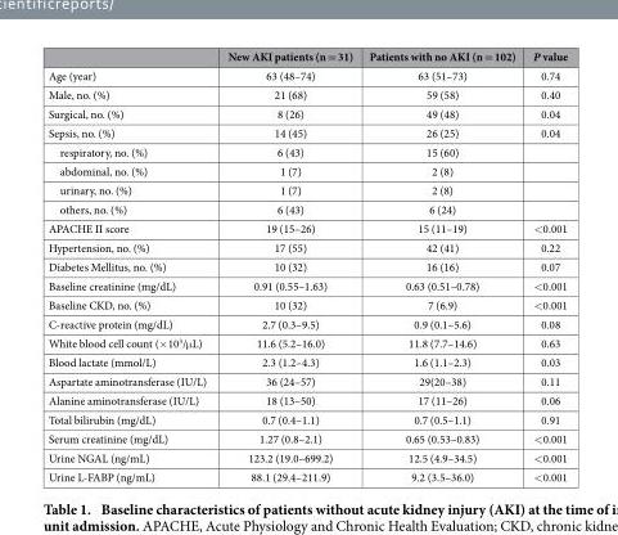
<table><thead><tr><td></td><td>New AKI patients (n = 31)</td><td>Patients with no AKI (n = 102)</td><td>P value</td></tr></thead><tbody><tr><td>Age (year)</td><td>63 (48–74)</td><td>63 (51–73)</td><td>0.74</td></tr><tr><td>Male, no. (%)</td><td>21 (68)</td><td>59 (58)</td><td>0.40</td></tr><tr><td>Surgical, no. (%)</td><td>8 (26)</td><td>49 (48)</td><td>0.04</td></tr><tr><td>Sepsis, no. (%)</td><td>14 (45)</td><td>26 (25)</td><td>0.04</td></tr><tr><td>respiratory, no. (%)</td><td>6 (43)</td><td>15 (60)</td><td></td></tr><tr><td>abdominal, no. (%)</td><td>1 (7)</td><td>2 (8)</td><td></td></tr><tr><td>urinary, no. (%)</td><td>1 (7)</td><td>2 (8)</td><td></td></tr><tr><td>others, no. (%)</td><td>6 (43)</td><td>6 (24)</td><td></td></tr><tr><td>APACHE II score</td><td>19 (15–26)</td><td>15 (11–19)</td><td>&lt; 0.001</td></tr><tr><td>Hypertension, no. (%)</td><td>17 (55)</td><td>42 (41)</td><td>0.22</td></tr><tr><td>Diabetes Mellitus, no. (%)</td><td>10 (32)</td><td>16 (16)</td><td>0.07</td></tr><tr><td>Baseline creatinine (mg/dL)</td><td>0.91 (0.55–1.63)</td><td>0.63 (0.51–0.78)</td><td>&lt; 0.001</td></tr><tr><td>Baseline CKD, no. (%)</td><td>10 (32)</td><td>7 (6.9)</td><td>&lt; 0.001</td></tr><tr><td>C-reactive protein (mg/dL)</td><td>2.7 (0.3–9.5)</td><td>0.9 (0.1–5.6)</td><td>0.08</td></tr><tr><td>White blood cell count (× 10<sup>3</sup>/μ L)</td><td>11.6 (5.2–16.0)</td><td>11.8 (7.7–14.6)</td><td>0.63</td></tr><tr><td>Blood lactate (mmol/L)</td><td>2.3 (1.2–4.3)</td><td>1.6 (1.1–2.3)</td><td>0.03</td></tr><tr><td>Aspartate aminotransferase (IU/L)</td><td>36 (24–57)</td><td>29(20–38)</td><td>0.11</td></tr><tr><td>Alanine aminotransferase (IU/L)</td><td>18 (13–50)</td><td>17 (11–26)</td><td>0.06</td></tr><tr><td>Total bilirubin (mg/dL)</td><td>0.7 (0.4–1.1)</td><td>0.7 (0.5–1.1)</td><td>0.91</td></tr><tr><td>Serum creatinine (mg/dL)</td><td>1.27 (0.8–2.1)</td><td>0.65 (0.53–0.83)</td><td>&lt; 0.001</td></tr><tr><td>Urine NGAL (ng/mL)</td><td>123.2 (19.0–699.2)</td><td>12.5 (4.9–34.5)</td><td>&lt; 0.001</td></tr><tr><td>Urine L-FABP (ng/mL)</td><td>88.1 (29.4–211.9)</td><td>9.2 (3.5–36.0)</td><td>&lt; 0.001</td></tr></tbody></table>